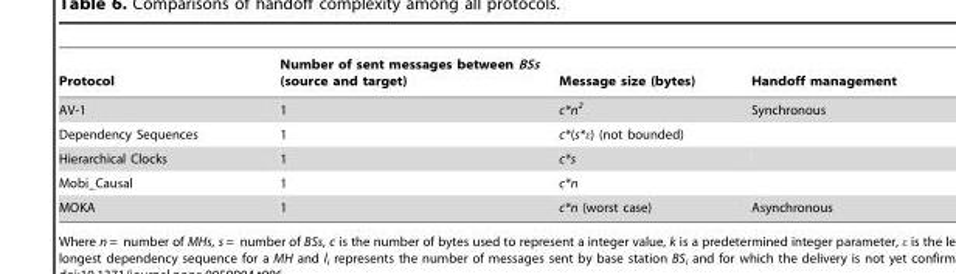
<table><thead><tr><td>Protocol</td><td>Number of sent messages between BSs (source and target)</td><td>Message size (bytes)</td><td>Handoff management</td></tr></thead><tbody><tr><td>AV-1</td><td>1</td><td>c*n<sup>2</sup></td><td>Synchronous</td></tr><tr><td>Dependency Sequences</td><td>1</td><td>c*(s*ε) (not bounded)</td><td></td></tr><tr><td>Hierarchical Clocks</td><td>1</td><td>c*s</td><td></td></tr><tr><td>Mobi_Causal</td><td>1</td><td>c*n</td><td></td></tr><tr><td>MOKA</td><td>1</td><td>c*n (worst case)</td><td>Asynchronous</td></tr></tbody></table>